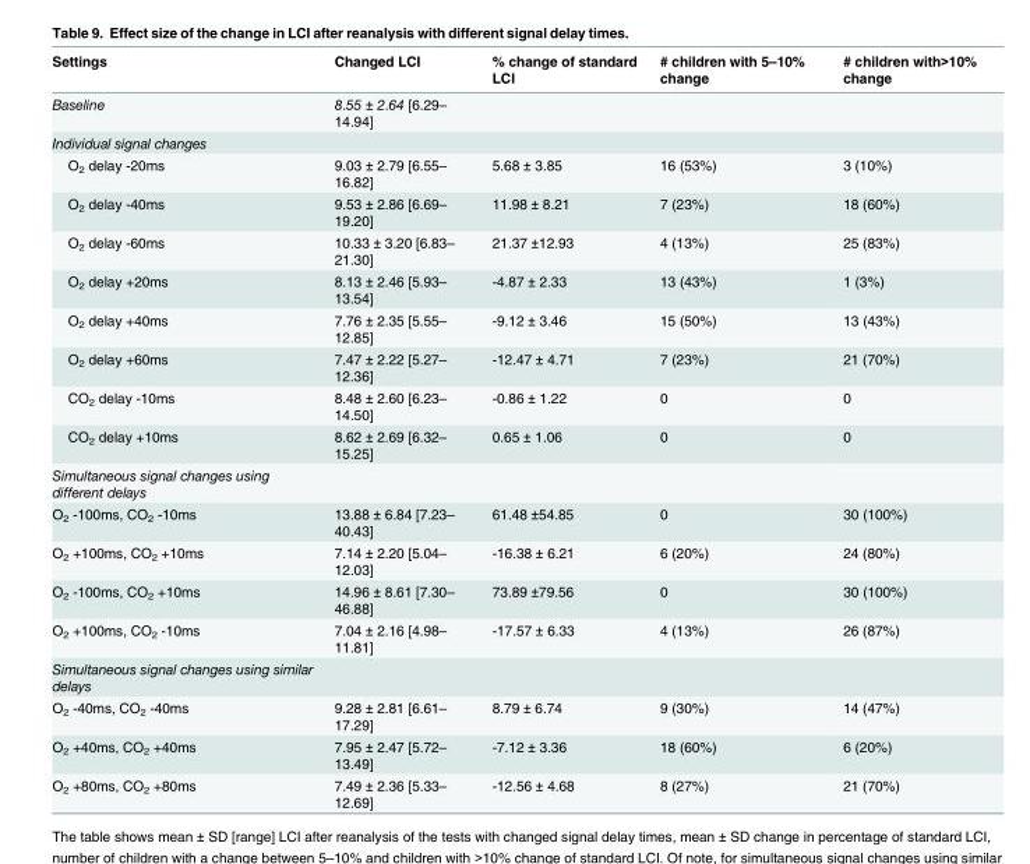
<table><thead><tr><td>Settings</td><td>Changed LCI</td><td>% change of standard LCI</td><td># children with 5–10% change</td><td># children with&gt;10% change</td></tr></thead><tbody><tr><td>Baseline</td><td>8.55 ± 2.64 [6.29– 14.94]</td><td></td><td></td><td></td></tr><tr><td colspan="5">Individual signal changes</td></tr><tr><td>O<sub>2</sub> delay -20ms</td><td>9.03 ± 2.79 [6.55– 16.82]</td><td>5.68 ± 3.85</td><td>16 (53%)</td><td>3 (10%)</td></tr><tr><td>O<sub>2</sub> delay -40ms</td><td>9.53 ± 2.86 [6.69– 19.20]</td><td>11.98 ± 8.21</td><td>7 (23%)</td><td>18 (60%)</td></tr><tr><td>O<sub>2</sub> delay -60ms</td><td>10.33 ± 3.20 [6.83– 21.30]</td><td>21.37 ±12.93</td><td>4 (13%)</td><td>25 (83%)</td></tr><tr><td>O<sub>2</sub> delay +20ms</td><td>8.13 ± 2.46 [5.93– 13.54]</td><td>-4.87 ± 2.33</td><td>13 (43%)</td><td>1 (3%)</td></tr><tr><td>O<sub>2</sub> delay +40ms</td><td>7.76 ± 2.35 [5.55– 12.85]</td><td>-9.12 ± 3.46</td><td>15 (50%)</td><td>13 (43%)</td></tr><tr><td>O<sub>2</sub> delay +60ms</td><td>7.47 ± 2.22 [5.27– 12.36]</td><td>-12.47 ± 4.71</td><td>7 (23%)</td><td>21 (70%)</td></tr><tr><td>CO<sub>2</sub> delay -10ms</td><td>8.48 ± 2.60 [6.23– 14.50]</td><td>-0.86 ± 1.22</td><td>0</td><td>0</td></tr><tr><td>CO<sub>2</sub> delay +10ms</td><td>8.62 ± 2.69 [6.32– 15.25]</td><td>0.65 ± 1.06</td><td>0</td><td>0</td></tr><tr><td colspan="5">Simultaneous signal changes using different delays</td></tr><tr><td>O<sub>2</sub> -100ms, CO<sub>2</sub> -10ms</td><td>13.88 ± 6.84 [7.23– 40.43]</td><td>61.48 ±54.85</td><td>0</td><td>30 (100%)</td></tr><tr><td>O<sub>2</sub> +100ms, CO<sub>2</sub> +10ms</td><td>7.14 ± 2.20 [5.04– 12.03]</td><td>-16.38 ± 6.21</td><td>6 (20%)</td><td>24 (80%)</td></tr><tr><td>O<sub>2</sub> -100ms, CO<sub>2</sub> +10ms</td><td>14.96 ± 8.61 [7.30– 46.88]</td><td>73.89 ±79.56</td><td>0</td><td>30 (100%)</td></tr><tr><td>O<sub>2</sub> +100ms, CO<sub>2</sub> -10ms</td><td>7.04 ± 2.16 [4.98– 11.81]</td><td>-17.57 ± 6.33</td><td>4 (13%)</td><td>26 (87%)</td></tr><tr><td colspan="5">Simultaneous signal changes using similar delays</td></tr><tr><td>O<sub>2</sub> -40ms, CO<sub>2</sub> -40ms</td><td>9.28 ± 2.81 [6.61– 17.29]</td><td>8.79 ± 6.74</td><td>9 (30%)</td><td>14 (47%)</td></tr><tr><td>O<sub>2</sub> +40ms, CO<sub>2</sub> +40ms</td><td>7.95 ± 2.47 [5.72– 13.49]</td><td>-7.12 ± 3.36</td><td>18 (60%)</td><td>6 (20%)</td></tr><tr><td>O<sub>2</sub> +80ms, CO<sub>2</sub> +80ms</td><td>7.49 ± 2.36 [5.33– 12.69]</td><td>-12.56 ± 4.68</td><td>8 (27%)</td><td>21 (70%)</td></tr></tbody></table>